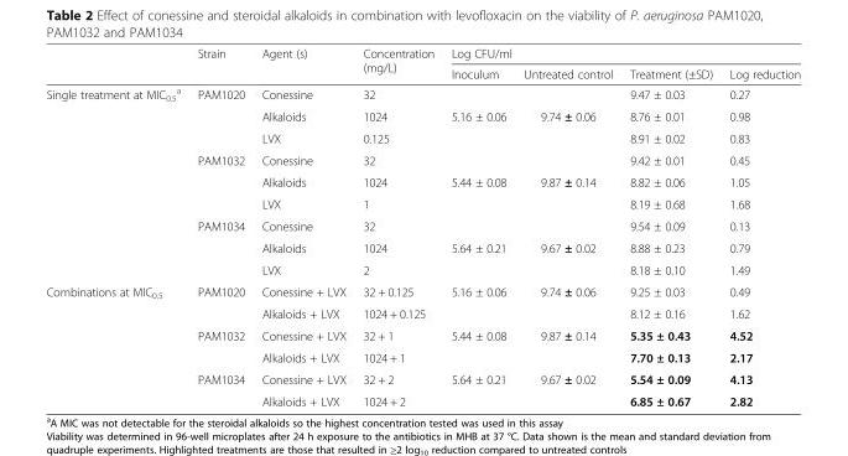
<table><thead><tr><td rowspan="2"></td><td rowspan="2">Strain</td><td rowspan="2">Agent (s)</td><td rowspan="2">Concentration (mg/L)</td><td colspan="4">Log CFU/ml</td></tr><tr><td>Inoculum</td><td>Untreated control</td><td>Treatment (±SD)</td><td>Log reduction</td></tr></thead><tbody><tr><td rowspan="9">Single treatment at MIC<sub>0.5</sub> <sup>a</sup></td><td>PAM1020</td><td>Conessine</td><td>32</td><td></td><td></td><td>9.47 ± 0.03</td><td>0.27</td></tr><tr><td></td><td>Alkaloids</td><td>1024</td><td>5.16 ± 0.06</td><td>9.74 ± 0.06</td><td>8.76 ± 0.01</td><td>0.98</td></tr><tr><td></td><td>LVX</td><td>0.125</td><td></td><td></td><td>8.91 ± 0.02</td><td>0.83</td></tr><tr><td>PAM1032</td><td>Conessine</td><td>32</td><td></td><td></td><td>9.42 ± 0.01</td><td>0.45</td></tr><tr><td></td><td>Alkaloids</td><td>1024</td><td>5.44 ± 0.08</td><td>9.87 ± 0.14</td><td>8.82 ± 0.06</td><td>1.05</td></tr><tr><td></td><td>LVX</td><td>1</td><td></td><td></td><td>8.19 ± 0.68</td><td>1.68</td></tr><tr><td>PAM1034</td><td>Conessine</td><td>32</td><td></td><td></td><td>9.54 ± 0.09</td><td>0.13</td></tr><tr><td></td><td>Alkaloids</td><td>1024</td><td>5.64 ± 0.21</td><td>9.67 ± 0.02</td><td>8.88 ± 0.23</td><td>0.79</td></tr><tr><td></td><td>LVX</td><td>2</td><td></td><td></td><td>8.18 ± 0.10</td><td>1.49</td></tr><tr><td rowspan="6">Combinations at MIC<sub>0.5</sub></td><td>PAM1020</td><td>Conessine + LVX</td><td>32 + 0.125</td><td>5.16 ± 0.06</td><td>9.74 ± 0.06</td><td>9.25 ± 0.03</td><td>0.49</td></tr><tr><td></td><td>Alkaloids + LVX</td><td>1024 + 0.125</td><td></td><td></td><td>8.12 ± 0.16</td><td>1.62</td></tr><tr><td>PAM1032</td><td>Conessine + LVX</td><td>32 + 1</td><td>5.44 ± 0.08</td><td>9.87 ± 0.14</td><td>5.35 ± 0.43</td><td>4.52</td></tr><tr><td></td><td>Alkaloids + LVX</td><td>1024 + 1</td><td></td><td></td><td>7.70 ± 0.13</td><td>2.17</td></tr><tr><td>PAM1034</td><td>Conessine + LVX</td><td>32 + 2</td><td>5.64 ± 0.21</td><td>9.67 ± 0.02</td><td>5.54 ± 0.09</td><td>4.13</td></tr><tr><td></td><td>Alkaloids + LVX</td><td>1024 + 2</td><td></td><td></td><td>6.85 ± 0.67</td><td>2.82</td></tr></tbody></table>